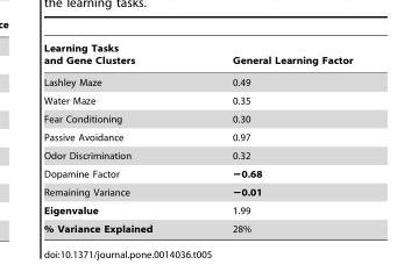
<table><thead><tr><td>Learning Tasks and Gene Clusters</td><td>General Learning Factor</td></tr></thead><tbody><tr><td>Lashley Maze</td><td>0.49</td></tr><tr><td>Water Maze</td><td>0.35</td></tr><tr><td>Fear Conditioning</td><td>0.30</td></tr><tr><td>Passive Avoidance</td><td>0.97</td></tr><tr><td>Odor Discrimination</td><td>0.32</td></tr><tr><td>Dopamine Factor</td><td>−0.68</td></tr><tr><td>Remaining Variance</td><td>−0.01</td></tr><tr><td>Eigenvalue</td><td>1.99</td></tr><tr><td>% Variance Explained</td><td>28%</td></tr></tbody></table>